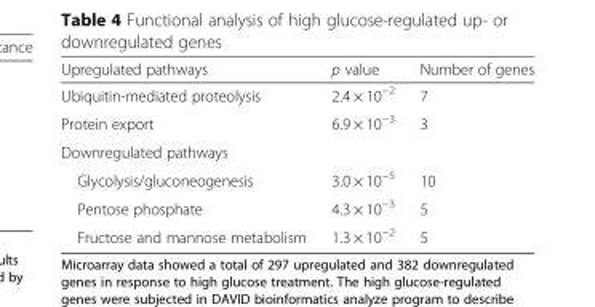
<table><thead><tr><td>Upregulated pathways</td><td>p value</td><td>Number of genes</td></tr></thead><tbody><tr><td>Ubiquitin-mediated proteolysis</td><td>2.4 × 10<sup>−2</sup></td><td>7</td></tr><tr><td>Protein export</td><td>6.9 × 10<sup>−3</sup></td><td>3</td></tr><tr><td colspan="3">Downregulated pathways</td></tr><tr><td>Glycolysis/gluconeogenesis</td><td>3.0 × 10<sup>−5</sup></td><td>10</td></tr><tr><td>Pentose phosphate</td><td>4.3 × 10<sup>−3</sup></td><td>5</td></tr><tr><td>Fructose and mannose metabolism</td><td>1.3 × 10<sup>−2</sup></td><td>5</td></tr></tbody></table>